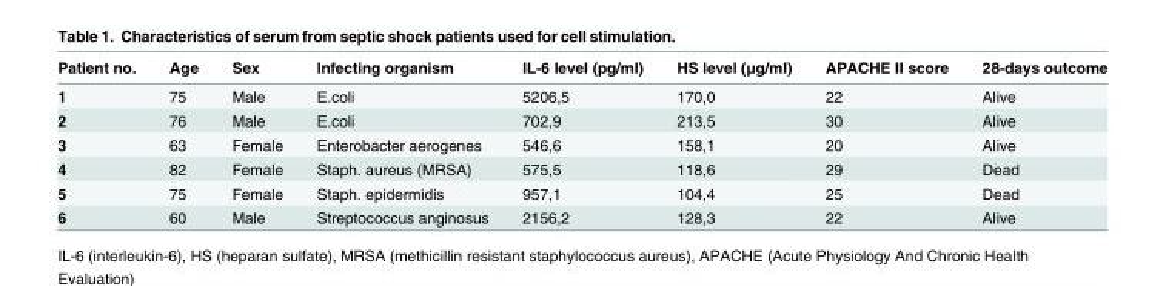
<table><thead><tr><td>Patient no.</td><td>Age</td><td>Sex</td><td>Infecting organism</td><td>IL-6 level (pg/ml)</td><td>HS level (μg/ml)</td><td>APACHE II score</td><td>28-days outcome</td></tr></thead><tbody><tr><td>1</td><td>75</td><td>Male</td><td>E.coli</td><td>5206,5</td><td>170,0</td><td>22</td><td>Alive</td></tr><tr><td>2</td><td>76</td><td>Male</td><td>E.coli</td><td>702,9</td><td>213,5</td><td>30</td><td>Alive</td></tr><tr><td>3</td><td>63</td><td>Female</td><td>Enterobacter aerogenes</td><td>546,6</td><td>158,1</td><td>20</td><td>Alive</td></tr><tr><td>4</td><td>82</td><td>Female</td><td>Staph. aureus (MRSA)</td><td>575,5</td><td>118,6</td><td>29</td><td>Dead</td></tr><tr><td>5</td><td>75</td><td>Female</td><td>Staph. epidermidis</td><td>957,1</td><td>104,4</td><td>25</td><td>Dead</td></tr><tr><td>6</td><td>60</td><td>Male</td><td>Streptococcus anginosus</td><td>2156,2</td><td>128,3</td><td>22</td><td>Alive</td></tr></tbody></table>